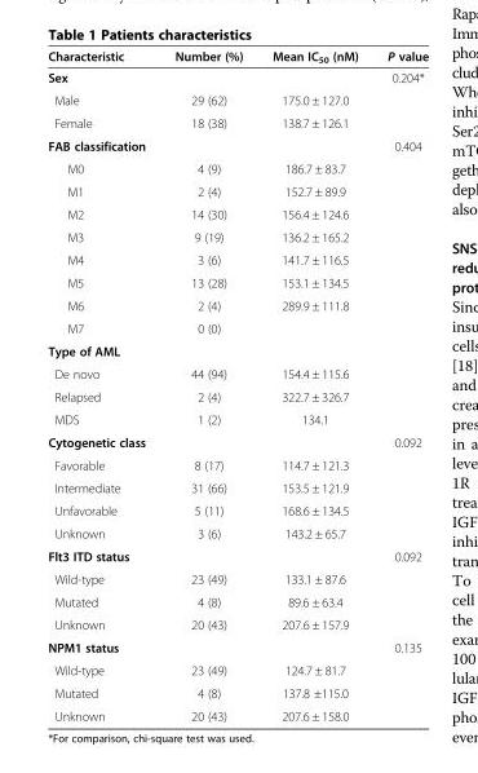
<table><thead><tr><td>Characteristic</td><td>Number (%)</td><td>Mean IC<sub>50</sub> (nM)</td><td>P value</td></tr></thead><tbody><tr><td>Sex</td><td></td><td></td><td>0.204*</td></tr><tr><td>Male</td><td>29 (62)</td><td>175.0 ± 127.0</td><td></td></tr><tr><td>Female</td><td>18 (38)</td><td>138.7 ± 126.1</td><td></td></tr><tr><td>FAB classification</td><td></td><td></td><td>0.404</td></tr><tr><td>M0</td><td>4 (9)</td><td>186.7 ± 83.7</td><td></td></tr><tr><td>M1</td><td>2 (4)</td><td>152.7 ± 89.9</td><td></td></tr><tr><td>M2</td><td>14 (30)</td><td>156.4 ± 124.6</td><td></td></tr><tr><td>M3</td><td>9 (19)</td><td>136.2 ± 165.2</td><td></td></tr><tr><td>M4</td><td>3 (6)</td><td>141.7 ± 116.5</td><td></td></tr><tr><td>M5</td><td>13 (28)</td><td>153.1 ± 134.5</td><td></td></tr><tr><td>M6</td><td>2 (4)</td><td>289.9 ± 111.8</td><td></td></tr><tr><td>M7</td><td>0 (0)</td><td></td><td></td></tr><tr><td colspan="4">Type of AML</td></tr><tr><td>De novo</td><td>44 (94)</td><td>154.4 ± 115.6</td><td></td></tr><tr><td>Relapsed</td><td>2 (4)</td><td>322.7 ± 326.7</td><td></td></tr><tr><td>MDS</td><td>1 (2)</td><td>134.1</td><td></td></tr><tr><td>Cytogenetic class</td><td></td><td></td><td>0.092</td></tr><tr><td>Favorable</td><td>8 (17)</td><td>114.7 ± 121.3</td><td></td></tr><tr><td>Intermediate</td><td>31 (66)</td><td>153.5 ± 121.9</td><td></td></tr><tr><td>Unfavorable</td><td>5 (11)</td><td>168.6 ± 134.5</td><td></td></tr><tr><td>Unknown</td><td>3 (6)</td><td>143.2 ± 65.7</td><td></td></tr><tr><td>Flt3 ITD status</td><td></td><td></td><td>0.092</td></tr><tr><td>Wild-type</td><td>23 (49)</td><td>133.1 ± 87.6</td><td></td></tr><tr><td>Mutated</td><td>4 (8)</td><td>89.6 ± 63.4</td><td></td></tr><tr><td>Unknown</td><td>20 (43)</td><td>207.6 ± 157.9</td><td></td></tr><tr><td>NPM1 status</td><td></td><td></td><td>0.135</td></tr><tr><td>Wild-type</td><td>23 (49)</td><td>124.7 ± 81.7</td><td></td></tr><tr><td>Mutated</td><td>4 (8)</td><td>137.8 ±115.0</td><td></td></tr><tr><td>Unknown</td><td>20 (43)</td><td>207.6 ± 158.0</td><td></td></tr></tbody></table>